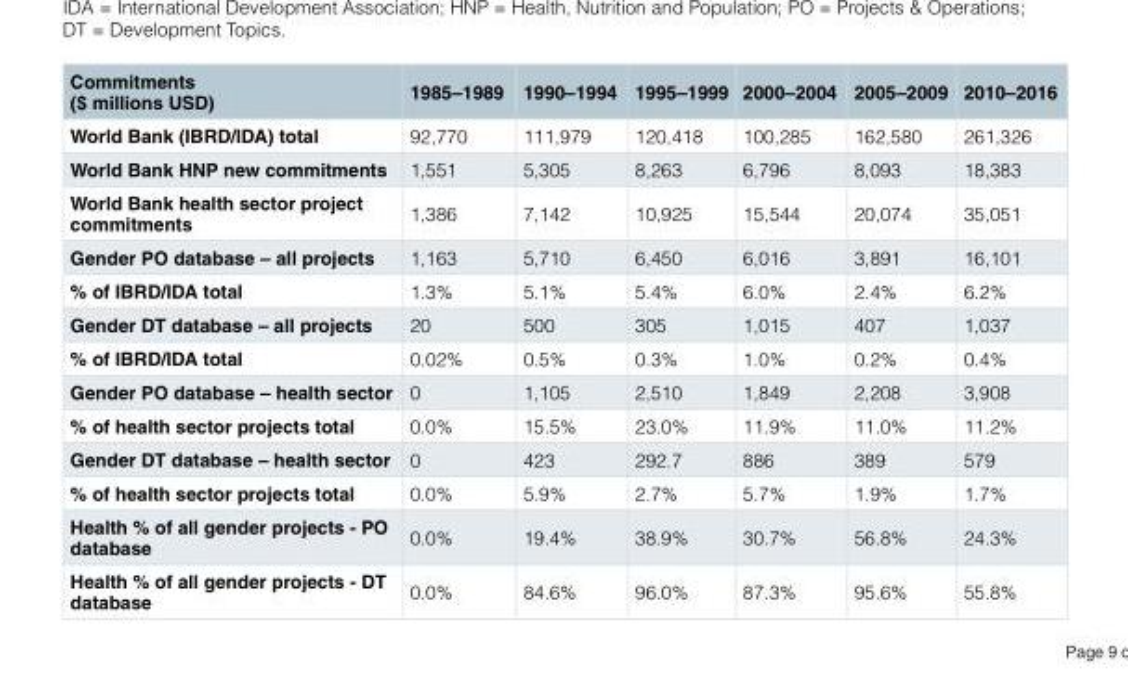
<table><thead><tr><td>Commitments ($ millions USD)</td><td>1985–1989</td><td>1990–1994</td><td>1995–1999</td><td>2000–2004</td><td>2005–2009</td><td>2010–2016</td></tr></thead><tbody><tr><td>World Bank (IBRD/IDA) total</td><td>92,770</td><td>111,979</td><td>120,418</td><td>100,285</td><td>162,580</td><td>261,326</td></tr><tr><td>World Bank HNP new commitments</td><td>1,551</td><td>5,305</td><td>8,263</td><td>6,796</td><td>8,093</td><td>18,383</td></tr><tr><td>World Bank health sector project commitments</td><td>1,386</td><td>7,142</td><td>10,925</td><td>15,544</td><td>20,074</td><td>35,051</td></tr><tr><td>Gender PO database – all projects</td><td>1,163</td><td>5,710</td><td>6,450</td><td>6,016</td><td>3,891</td><td>16,101</td></tr><tr><td>% of IBRD/IDA total</td><td>1.3%</td><td>5.1%</td><td>5.4%</td><td>6.0%</td><td>2.4%</td><td>6.2%</td></tr><tr><td>Gender DT database – all projects</td><td>20</td><td>500</td><td>305</td><td>1,015</td><td>407</td><td>1,037</td></tr><tr><td>% of IBRD/IDA total</td><td>0.02%</td><td>0.5%</td><td>0.3%</td><td>1.0%</td><td>0.2%</td><td>0.4%</td></tr><tr><td>Gender PO database – health sector</td><td>0</td><td>1,105</td><td>2,510</td><td>1,849</td><td>2,208</td><td>3,908</td></tr><tr><td>% of health sector projects total</td><td>0.0%</td><td>15.5%</td><td>23.0%</td><td>11.9%</td><td>11.0%</td><td>11.2%</td></tr><tr><td>Gender DT database – health sector</td><td>0</td><td>423</td><td>292.7</td><td>886</td><td>389</td><td>579</td></tr><tr><td>% of health sector projects total</td><td>0.0%</td><td>5.9%</td><td>2.7%</td><td>5.7%</td><td>1.9%</td><td>1.7%</td></tr><tr><td>Health % of all gender projects - PO database</td><td>0.0%</td><td>19.4%</td><td>38.9%</td><td>30.7%</td><td>56.8%</td><td>24.3%</td></tr><tr><td>Health % of all gender projects - DT database</td><td>0.0%</td><td>84.6%</td><td>96.0%</td><td>87.3%</td><td>95.6%</td><td>55.8%</td></tr></tbody></table>